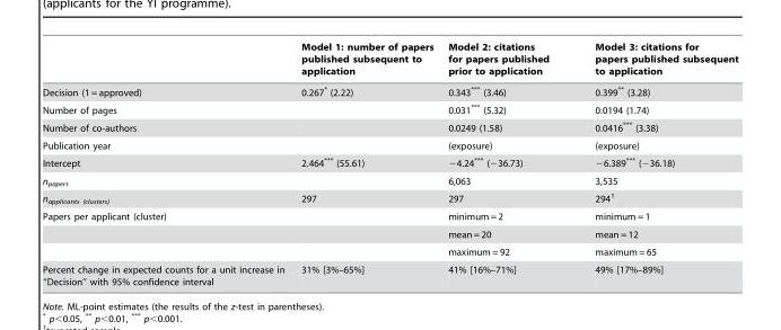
<table><thead><tr><td></td><td>Model 1: number of papers published subsequent to application</td><td>Model 2: citations for papers published prior to application</td><td>Model 3: citations for papers published subsequent to application</td></tr></thead><tbody><tr><td>Decision (1 = approved)</td><td>0.267* (2.22)</td><td>0.343*** (3.46)</td><td>0.399** (3.28)</td></tr><tr><td>Number of pages</td><td></td><td>0.031*** (5.32)</td><td>0.0194 (1.74)</td></tr><tr><td>Number of co-authors</td><td></td><td>0.0249 (1.58)</td><td>0.0416*** (3.38)</td></tr><tr><td>Publication year</td><td></td><td>(exposure)</td><td>(exposure)</td></tr><tr><td>Intercept</td><td>2.464*** (55.61)</td><td>−4.24*** (−36.73)</td><td>−6.389*** (−36.18)</td></tr><tr><td>n<sub>papers</sub></td><td></td><td>6,063</td><td>3,535</td></tr><tr><td>n<sub>applicants (clusters)</sub></td><td>297</td><td>297</td><td>294<sup>1</sup></td></tr><tr><td rowspan="3">Papers per applicant (cluster)</td><td></td><td>minimum = 2</td><td>minimum = 1</td></tr><tr><td></td><td>mean = 20</td><td>mean = 12</td></tr><tr><td></td><td>maximum = 92</td><td>maximum = 65</td></tr><tr><td>Percent change in expected counts for a unit increase in ‘‘Decision’’ with 95% confidence interval</td><td>31% [3%–65%]</td><td>41% [16%–71%]</td><td>49% [17%–89%]</td></tr></tbody></table>